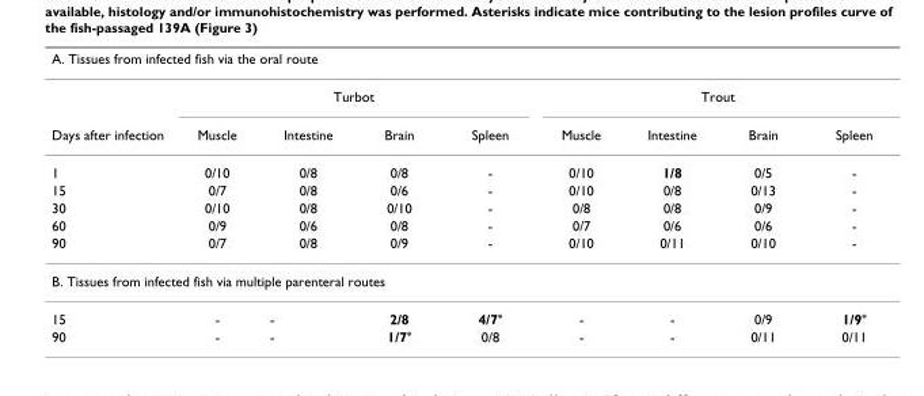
<table><thead><tr><td colspan="9">A. Tissues from infected fish via the oral route</td></tr><tr><td rowspan="2">Days after infection</td><td colspan="4">Turbot</td><td colspan="4">Trout</td></tr><tr><td>Muscle</td><td>Intestine</td><td>Brain</td><td>Spleen</td><td>Muscle</td><td>Intestine</td><td>Brain</td><td>Spleen</td></tr></thead><tbody><tr><td>1</td><td>0/10</td><td>0/8</td><td>0/8</td><td>-</td><td>0/10</td><td>1/8</td><td>0/5</td><td>-</td></tr><tr><td>15</td><td>0/7</td><td>0/8</td><td>0/6</td><td>-</td><td>0/10</td><td>0/8</td><td>0/13</td><td>-</td></tr><tr><td>30</td><td>0/10</td><td>0/8</td><td>0/10</td><td>-</td><td>0/8</td><td>0/8</td><td>0/9</td><td>-</td></tr><tr><td>60</td><td>0/9</td><td>0/6</td><td>0/8</td><td>-</td><td>0/7</td><td>0/6</td><td>0/6</td><td>-</td></tr><tr><td>90</td><td>0/7</td><td>0/8</td><td>0/9</td><td>-</td><td>0/10</td><td>0/11</td><td>0/10</td><td>-</td></tr><tr><td colspan="9">B. Tissues from infected fish via multiple parenteral routes</td></tr><tr><td>15</td><td>-</td><td>-</td><td>2/8</td><td>4/7*</td><td>-</td><td>-</td><td>0/9</td><td>1/9*</td></tr><tr><td>90</td><td>-</td><td>-</td><td>1/7*</td><td>0/8</td><td>-</td><td>-</td><td>0/11</td><td>0/11</td></tr></tbody></table>